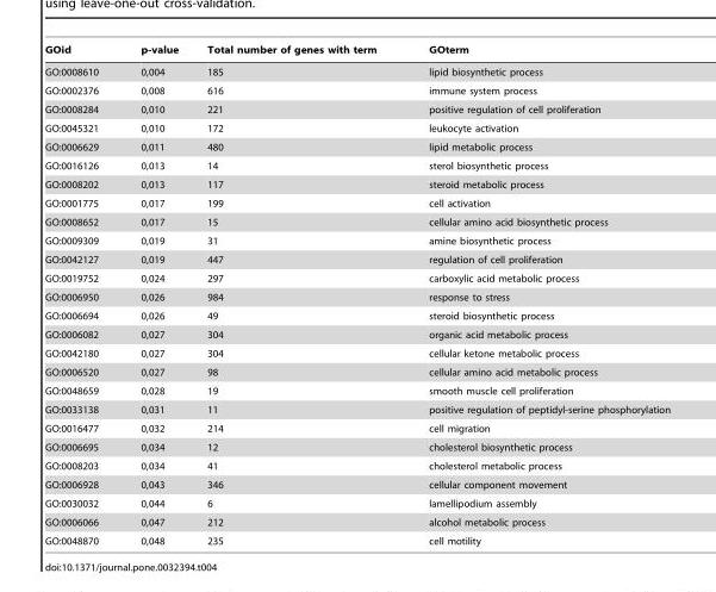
<table><thead><tr><td>GOid</td><td>p-value</td><td>Total number of genes with term</td><td>GOterm</td></tr></thead><tbody><tr><td>GO:0008610</td><td>0,004</td><td>185</td><td>lipid biosynthetic process</td></tr><tr><td>GO:0002376</td><td>0,008</td><td>616</td><td>immune system process</td></tr><tr><td>GO:0008284</td><td>0,010</td><td>221</td><td>positive regulation of cell proliferation</td></tr><tr><td>GO:0045321</td><td>0,010</td><td>172</td><td>leukocyte activation</td></tr><tr><td>GO:0006629</td><td>0,011</td><td>480</td><td>lipid metabolic process</td></tr><tr><td>GO:0016126</td><td>0,013</td><td>14</td><td>sterol biosynthetic process</td></tr><tr><td>GO:0008202</td><td>0,013</td><td>117</td><td>steroid metabolic process</td></tr><tr><td>GO:0001775</td><td>0,017</td><td>199</td><td>cell activation</td></tr><tr><td>GO:0008652</td><td>0,017</td><td>15</td><td>cellular amino acid biosynthetic process</td></tr><tr><td>GO:0009309</td><td>0,019</td><td>31</td><td>amine biosynthetic process</td></tr><tr><td>GO:0042127</td><td>0,019</td><td>447</td><td>regulation of cell proliferation</td></tr><tr><td>GO:0019752</td><td>0,024</td><td>297</td><td>carboxylic acid metabolic process</td></tr><tr><td>GO:0006950</td><td>0,026</td><td>984</td><td>response to stress</td></tr><tr><td>GO:0006694</td><td>0,026</td><td>49</td><td>steroid biosynthetic process</td></tr><tr><td>GO:0006082</td><td>0,027</td><td>304</td><td>organic acid metabolic process</td></tr><tr><td>GO:0042180</td><td>0,027</td><td>304</td><td>cellular ketone metabolic process</td></tr><tr><td>GO:0006520</td><td>0,027</td><td>98</td><td>cellular amino acid metabolic process</td></tr><tr><td>GO:0048659</td><td>0,028</td><td>19</td><td>smooth muscle cell proliferation</td></tr><tr><td>GO:0033138</td><td>0,031</td><td>11</td><td>positive regulation of peptidyl-serine phosphorylation</td></tr><tr><td>GO:0016477</td><td>0,032</td><td>214</td><td>cell migration</td></tr><tr><td>GO:0006695</td><td>0,034</td><td>12</td><td>cholesterol biosynthetic process</td></tr><tr><td>GO:0008203</td><td>0,034</td><td>41</td><td>cholesterol metabolic process</td></tr><tr><td>GO:0006928</td><td>0,043</td><td>346</td><td>cellular component movement</td></tr><tr><td>GO:0030032</td><td>0,044</td><td>6</td><td>lamellipodium assembly</td></tr><tr><td>GO:0006066</td><td>0,047</td><td>212</td><td>alcohol metabolic process</td></tr><tr><td>GO:0048870</td><td>0,048</td><td>235</td><td>cell motility</td></tr></tbody></table>